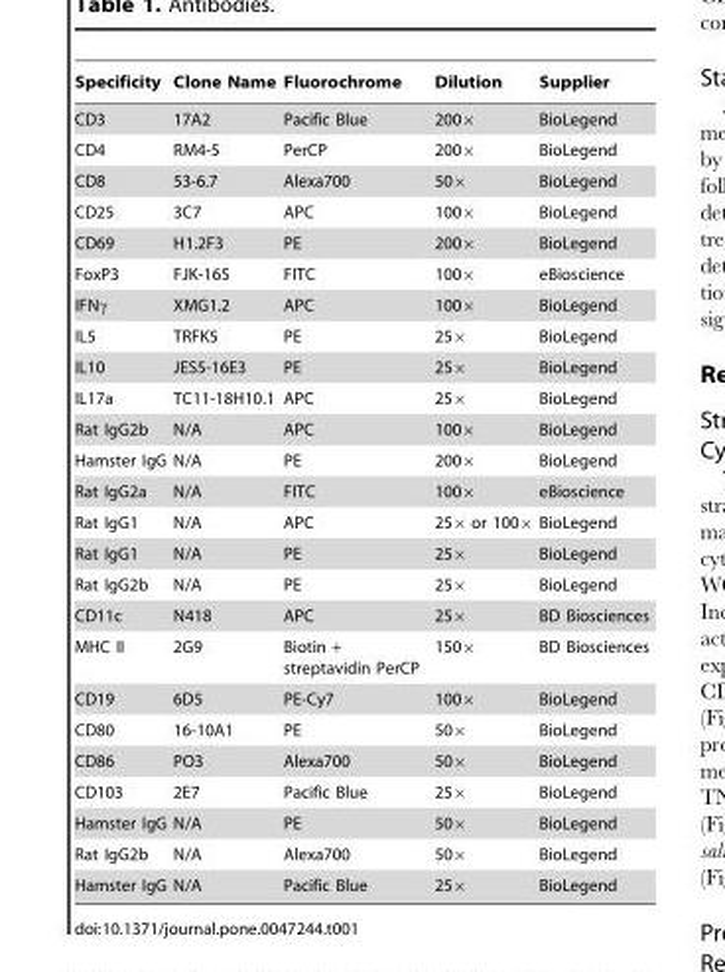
<table><thead><tr><td>Specificity</td><td>Clone Name</td><td>Fluorochrome</td><td>Dilution</td><td>Supplier</td></tr></thead><tbody><tr><td>CD3</td><td>17A2</td><td>Pacific Blue</td><td>200×</td><td>BioLegend</td></tr><tr><td>CD4</td><td>RM4-5</td><td>PerCP</td><td>200×</td><td>BioLegend</td></tr><tr><td>CD8</td><td>53-6.7</td><td>Alexa700</td><td>50×</td><td>BioLegend</td></tr><tr><td>CD25</td><td>3C7</td><td>APC</td><td>100×</td><td>BioLegend</td></tr><tr><td>CD69</td><td>H1.2F3</td><td>PE</td><td>200×</td><td>BioLegend</td></tr><tr><td>FoxP3</td><td>FJK-16S</td><td>FITC</td><td>100×</td><td>eBioscience</td></tr><tr><td>IFNγ</td><td>XMG1.2</td><td>APC</td><td>100×</td><td>BioLegend</td></tr><tr><td>IL5</td><td>TRFK5</td><td>PE</td><td>25×</td><td>BioLegend</td></tr><tr><td>IL10</td><td>JES5-16E3</td><td>PE</td><td>25×</td><td>BioLegend</td></tr><tr><td>IL17a</td><td>TC11-18H10.1</td><td>APC</td><td>25×</td><td>BioLegend</td></tr><tr><td>Rat IgG2b</td><td>N/A</td><td>APC</td><td>100×</td><td>BioLegend</td></tr><tr><td>Hamster IgG</td><td>N/A</td><td>PE</td><td>200×</td><td>BioLegend</td></tr><tr><td>Rat IgG2a</td><td>N/A</td><td>FITC</td><td>100×</td><td>eBioscience</td></tr><tr><td>Rat IgG1</td><td>N/A</td><td>APC</td><td>25× or 100×</td><td>BioLegend</td></tr><tr><td>Rat IgG1</td><td>N/A</td><td>PE</td><td>25×</td><td>BioLegend</td></tr><tr><td>Rat IgG2b</td><td>N/A</td><td>PE</td><td>25×</td><td>BioLegend</td></tr><tr><td>CD11c</td><td>N418</td><td>APC</td><td>25×</td><td>BD Biosciences</td></tr><tr><td>MHC II</td><td>2G9</td><td>Biotin + streptavidin PerCP</td><td>150×</td><td>BD Biosciences</td></tr><tr><td>CD19</td><td>6D5</td><td>PE-Cy7</td><td>100×</td><td>BioLegend</td></tr><tr><td>CD80</td><td>16-10A1</td><td>PE</td><td>50×</td><td>BioLegend</td></tr><tr><td>CD86</td><td>PO3</td><td>Alexa700</td><td>50×</td><td>BioLegend</td></tr><tr><td>CD103</td><td>2E7</td><td>Pacific Blue</td><td>25×</td><td>BioLegend</td></tr><tr><td>Hamster IgG</td><td>N/A</td><td>PE</td><td>50×</td><td>BioLegend</td></tr><tr><td>Rat IgG2b</td><td>N/A</td><td>Alexa700</td><td>50×</td><td>BioLegend</td></tr><tr><td>Hamster IgG</td><td>N/A</td><td>Pacific Blue</td><td>25×</td><td>BioLegend</td></tr></tbody></table>